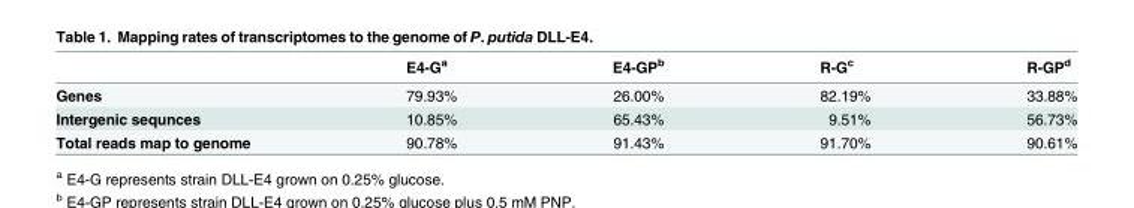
<table><thead><tr><td></td><td>E4-G<sup>a</sup></td><td>E4-GP<sup>b</sup></td><td>R-G<sup>c</sup></td><td>R-GP<sup>d</sup></td></tr></thead><tbody><tr><td>Genes</td><td>79.93%</td><td>26.00%</td><td>82.19%</td><td>33.88%</td></tr><tr><td>Intergenic sequnces</td><td>10.85%</td><td>65.43%</td><td>9.51%</td><td>56.73%</td></tr><tr><td>Total reads map to genome</td><td>90.78%</td><td>91.43%</td><td>91.70%</td><td>90.61%</td></tr></tbody></table>